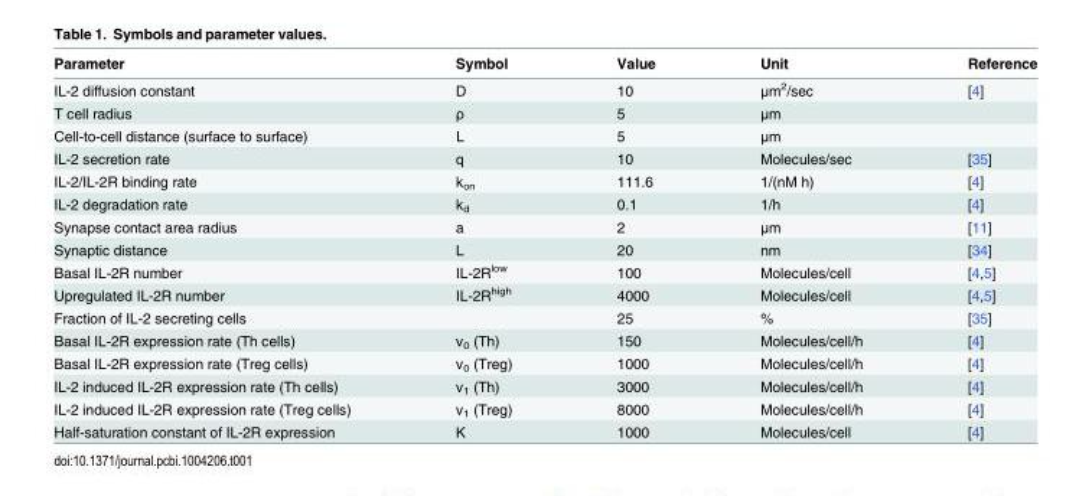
<table><thead><tr><td>Parameter</td><td>Symbol</td><td>Value</td><td>Unit</td><td>Reference</td></tr></thead><tbody><tr><td>IL-2 diffusion constant</td><td>D</td><td>10</td><td>μm<sup>2</sup>/sec</td><td>[4]</td></tr><tr><td>T cell radius</td><td>ρ</td><td>5</td><td>μm</td><td></td></tr><tr><td>Cell-to-cell distance (surface to surface)</td><td>L</td><td>5</td><td>μm</td><td></td></tr><tr><td>IL-2 secretion rate</td><td>q</td><td>10</td><td>Molecules/sec</td><td>[35]</td></tr><tr><td>IL-2/IL-2R binding rate</td><td>k<sub>on</sub></td><td>111.6</td><td>1/(nM h)</td><td>[4]</td></tr><tr><td>IL-2 degradation rate</td><td>k<sub>d</sub></td><td>0.1</td><td>1/h</td><td>[4]</td></tr><tr><td>Synapse contact area radius</td><td>a</td><td>2</td><td>μm</td><td>[11]</td></tr><tr><td>Synaptic distance</td><td>L</td><td>20</td><td>nm</td><td>[34]</td></tr><tr><td>Basal IL-2R number</td><td>IL-2R<sup>low</sup></td><td>100</td><td>Molecules/cell</td><td>[4,5]</td></tr><tr><td>Upregulated IL-2R number</td><td>IL-2R<sup>high</sup></td><td>4000</td><td>Molecules/cell</td><td>[4,5]</td></tr><tr><td>Fraction of IL-2 secreting cells</td><td></td><td>25</td><td>%</td><td>[35]</td></tr><tr><td>Basal IL-2R expression rate (Th cells)</td><td>v<sub>0</sub> (Th)</td><td>150</td><td>Molecules/cell/h</td><td>[4]</td></tr><tr><td>Basal IL-2R expression rate (Treg cells)</td><td>v<sub>0</sub> (Treg)</td><td>1000</td><td>Molecules/cell/h</td><td>[4]</td></tr><tr><td>IL-2 induced IL-2R expression rate (Th cells)</td><td>v<sub>1</sub> (Th)</td><td>3000</td><td>Molecules/cell/h</td><td>[4]</td></tr><tr><td>IL-2 induced IL-2R expression rate (Treg cells)</td><td>v<sub>1</sub> (Treg)</td><td>8000</td><td>Molecules/cell/h</td><td>[4]</td></tr><tr><td>Half-saturation constant of IL-2R expression</td><td>K</td><td>1000</td><td>Molecules/cell</td><td>[4]</td></tr></tbody></table>